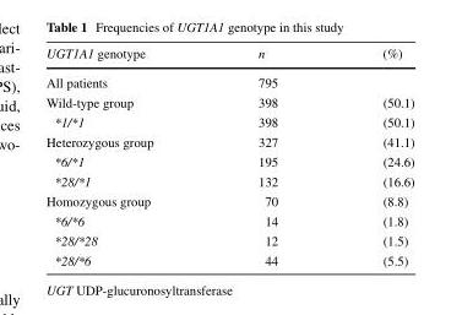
<table><thead><tr><td>UGT1A1 genotype</td><td>n</td><td>(%)</td></tr></thead><tbody><tr><td>All patients</td><td>795</td><td></td></tr><tr><td>Wild-type group</td><td>398</td><td>(50.1)</td></tr><tr><td>*1/*1</td><td>398</td><td>(50.1)</td></tr><tr><td>Heterozygous group</td><td>327</td><td>(41.1)</td></tr><tr><td>*6/*1</td><td>195</td><td>(24.6)</td></tr><tr><td>*28/*1</td><td>132</td><td>(16.6)</td></tr><tr><td>Homozygous group</td><td>70</td><td>(8.8)</td></tr><tr><td>*6/*6</td><td>14</td><td>(1.8)</td></tr><tr><td>*28/*28</td><td>12</td><td>(1.5)</td></tr><tr><td>*28/*6</td><td>44</td><td>(5.5)</td></tr></tbody></table>